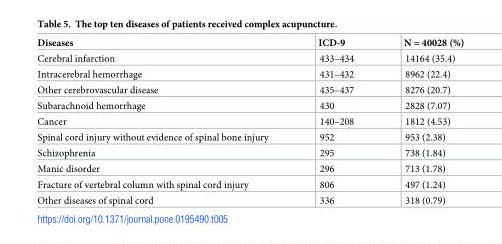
<table><thead><tr><td>Diseases</td><td>ICD-9</td><td>N = 40028 (%)</td></tr></thead><tbody><tr><td>Cerebral infarction</td><td>433–434</td><td>14164 (35.4)</td></tr><tr><td>Intracerebral hemorrhage</td><td>431–432</td><td>8962 (22.4)</td></tr><tr><td>Other cerebrovascular disease</td><td>435–437</td><td>8276 (20.7)</td></tr><tr><td>Subarachnoid hemorrhage</td><td>430</td><td>2828 (7.07)</td></tr><tr><td>Cancer</td><td>140–208</td><td>1812 (4.53)</td></tr><tr><td>Spinal cord injury without evidence of spinal bone injury</td><td>952</td><td>953 (2.38)</td></tr><tr><td>Schizophrenia</td><td>295</td><td>738 (1.84)</td></tr><tr><td>Manic disorder</td><td>296</td><td>713 (1.78)</td></tr><tr><td>Fracture of vertebral column with spinal cord injury</td><td>806</td><td>497 (1.24)</td></tr><tr><td>Other diseases of spinal cord</td><td>336</td><td>318 (0.79)</td></tr></tbody></table>